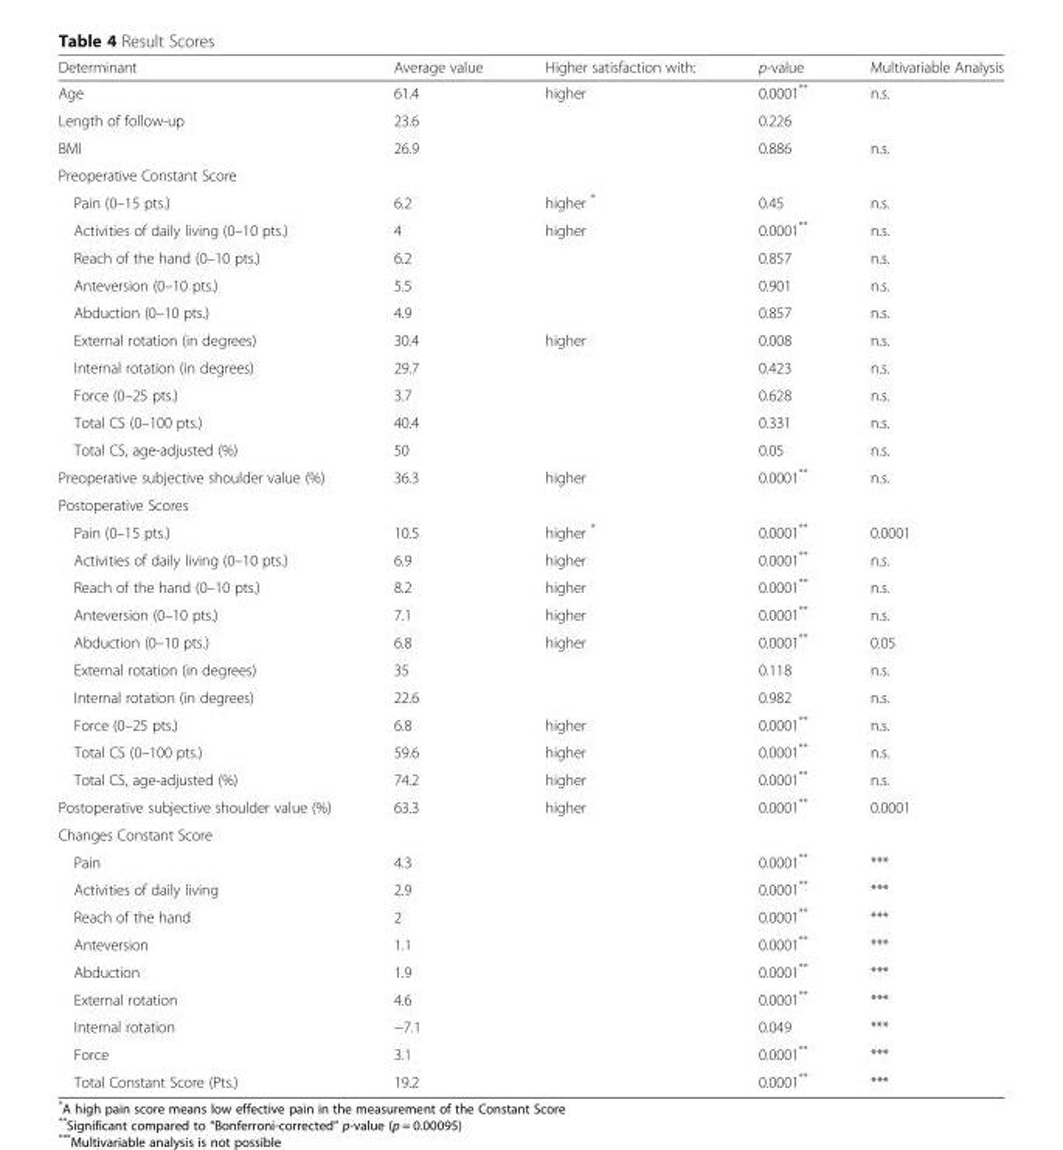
<table><thead><tr><td>Determinant</td><td>Average value</td><td>Higher satisfaction with:</td><td>p-value</td><td>Multivariable Analysis</td></tr></thead><tbody><tr><td>Age</td><td>61.4</td><td>higher</td><td>0.0001**</td><td>n.s.</td></tr><tr><td>Length of follow-up</td><td>23.6</td><td></td><td>0.226</td><td></td></tr><tr><td>BMI</td><td>26.9</td><td></td><td>0.886</td><td>n.s.</td></tr><tr><td colspan="5">Preoperative Constant Score</td></tr><tr><td>Pain (0–15 pts.)</td><td>6.2</td><td>higher *</td><td>0.45</td><td>n.s.</td></tr><tr><td>Activities of daily living (0–10 pts.)</td><td>4</td><td>higher</td><td>0.0001**</td><td>n.s.</td></tr><tr><td>Reach of the hand (0–10 pts.)</td><td>6.2</td><td></td><td>0.857</td><td>n.s.</td></tr><tr><td>Anteversion (0–10 pts.)</td><td>5.5</td><td></td><td>0.901</td><td>n.s.</td></tr><tr><td>Abduction (0–10 pts.)</td><td>4.9</td><td></td><td>0.857</td><td>n.s.</td></tr><tr><td>External rotation (in degrees)</td><td>30.4</td><td>higher</td><td>0.008</td><td>n.s.</td></tr><tr><td>Internal rotation (in degrees)</td><td>29.7</td><td></td><td>0.423</td><td>n.s.</td></tr><tr><td>Force (0–25 pts.)</td><td>3.7</td><td></td><td>0.628</td><td>n.s.</td></tr><tr><td>Total CS (0–100 pts.)</td><td>40.4</td><td></td><td>0.331</td><td>n.s.</td></tr><tr><td>Total CS, age-adjusted (%)</td><td>50</td><td></td><td>0.05</td><td>n.s.</td></tr><tr><td>Preoperative subjective shoulder value (%)</td><td>36.3</td><td>higher</td><td>0.0001**</td><td>n.s.</td></tr><tr><td colspan="5">Postoperative Scores</td></tr><tr><td>Pain (0–15 pts.)</td><td>10.5</td><td>higher *</td><td>0.0001**</td><td>0.0001</td></tr><tr><td>Activities of daily living (0–10 pts.)</td><td>6.9</td><td>higher</td><td>0.0001**</td><td>n.s.</td></tr><tr><td>Reach of the hand (0–10 pts.)</td><td>8.2</td><td>higher</td><td>0.0001**</td><td>n.s.</td></tr><tr><td>Anteversion (0–10 pts.)</td><td>7.1</td><td>higher</td><td>0.0001**</td><td>n.s.</td></tr><tr><td>Abduction (0–10 pts.)</td><td>6.8</td><td>higher</td><td>0.0001**</td><td>0.05</td></tr><tr><td>External rotation (in degrees)</td><td>35</td><td></td><td>0.118</td><td>n.s.</td></tr><tr><td>Internal rotation (in degrees)</td><td>22.6</td><td></td><td>0.982</td><td>n.s.</td></tr><tr><td>Force (0–25 pts.)</td><td>6.8</td><td>higher</td><td>0.0001**</td><td>n.s.</td></tr><tr><td>Total CS (0–100 pts.)</td><td>59.6</td><td>higher</td><td>0.0001**</td><td>n.s.</td></tr><tr><td>Total CS, age-adjusted (%)</td><td>74.2</td><td>higher</td><td>0.0001**</td><td>n.s.</td></tr><tr><td>Postoperative subjective shoulder value (%)</td><td>63.3</td><td>higher</td><td>0.0001**</td><td>0.0001</td></tr><tr><td colspan="5">Changes Constant Score</td></tr><tr><td>Pain</td><td>4.3</td><td></td><td>0.0001**</td><td>***</td></tr><tr><td>Activities of daily living</td><td>2.9</td><td></td><td>0.0001**</td><td>***</td></tr><tr><td>Reach of the hand</td><td>2</td><td></td><td>0.0001**</td><td>***</td></tr><tr><td>Anteversion</td><td>1.1</td><td></td><td>0.0001**</td><td>***</td></tr><tr><td>Abduction</td><td>1.9</td><td></td><td>0.0001**</td><td>***</td></tr><tr><td>External rotation</td><td>4.6</td><td></td><td>0.0001**</td><td>***</td></tr><tr><td>Internal rotation</td><td>−7.1</td><td></td><td>0.049</td><td>***</td></tr><tr><td>Force</td><td>3.1</td><td></td><td>0.0001**</td><td>***</td></tr><tr><td>Total Constant Score (Pts.)</td><td>19.2</td><td></td><td>0.0001**</td><td>***</td></tr></tbody></table>